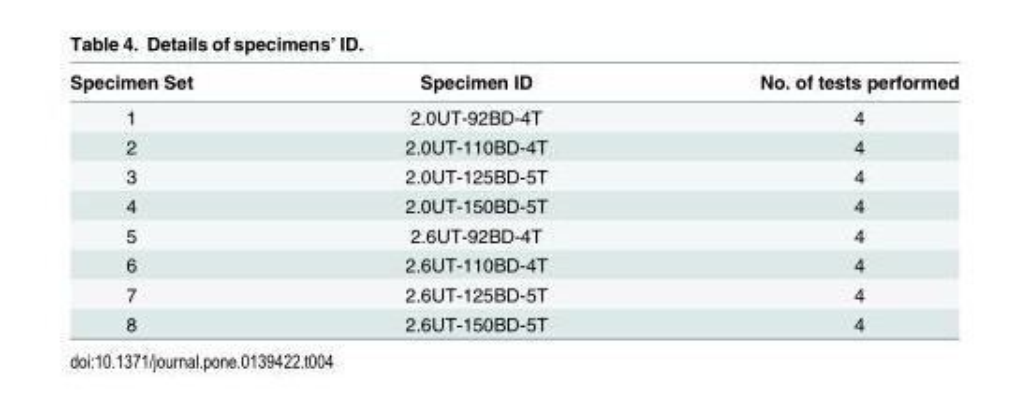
<table><thead><tr><td>Specimen Set</td><td>Specimen ID</td><td>No. of tests performed</td></tr></thead><tbody><tr><td>1</td><td>2.0UT-92BD-4T</td><td>4</td></tr><tr><td>2</td><td>2.0UT-110BD-4T</td><td>4</td></tr><tr><td>3</td><td>2.0UT-125BD-5T</td><td>4</td></tr><tr><td>4</td><td>2.0UT-150BD-5T</td><td>4</td></tr><tr><td>5</td><td>2.6UT-92BD-4T</td><td>4</td></tr><tr><td>6</td><td>2.6UT-110BD-4T</td><td>4</td></tr><tr><td>7</td><td>2.6UT-125BD-5T</td><td>4</td></tr><tr><td>8</td><td>2.6UT-150BD-5T</td><td>4</td></tr></tbody></table>